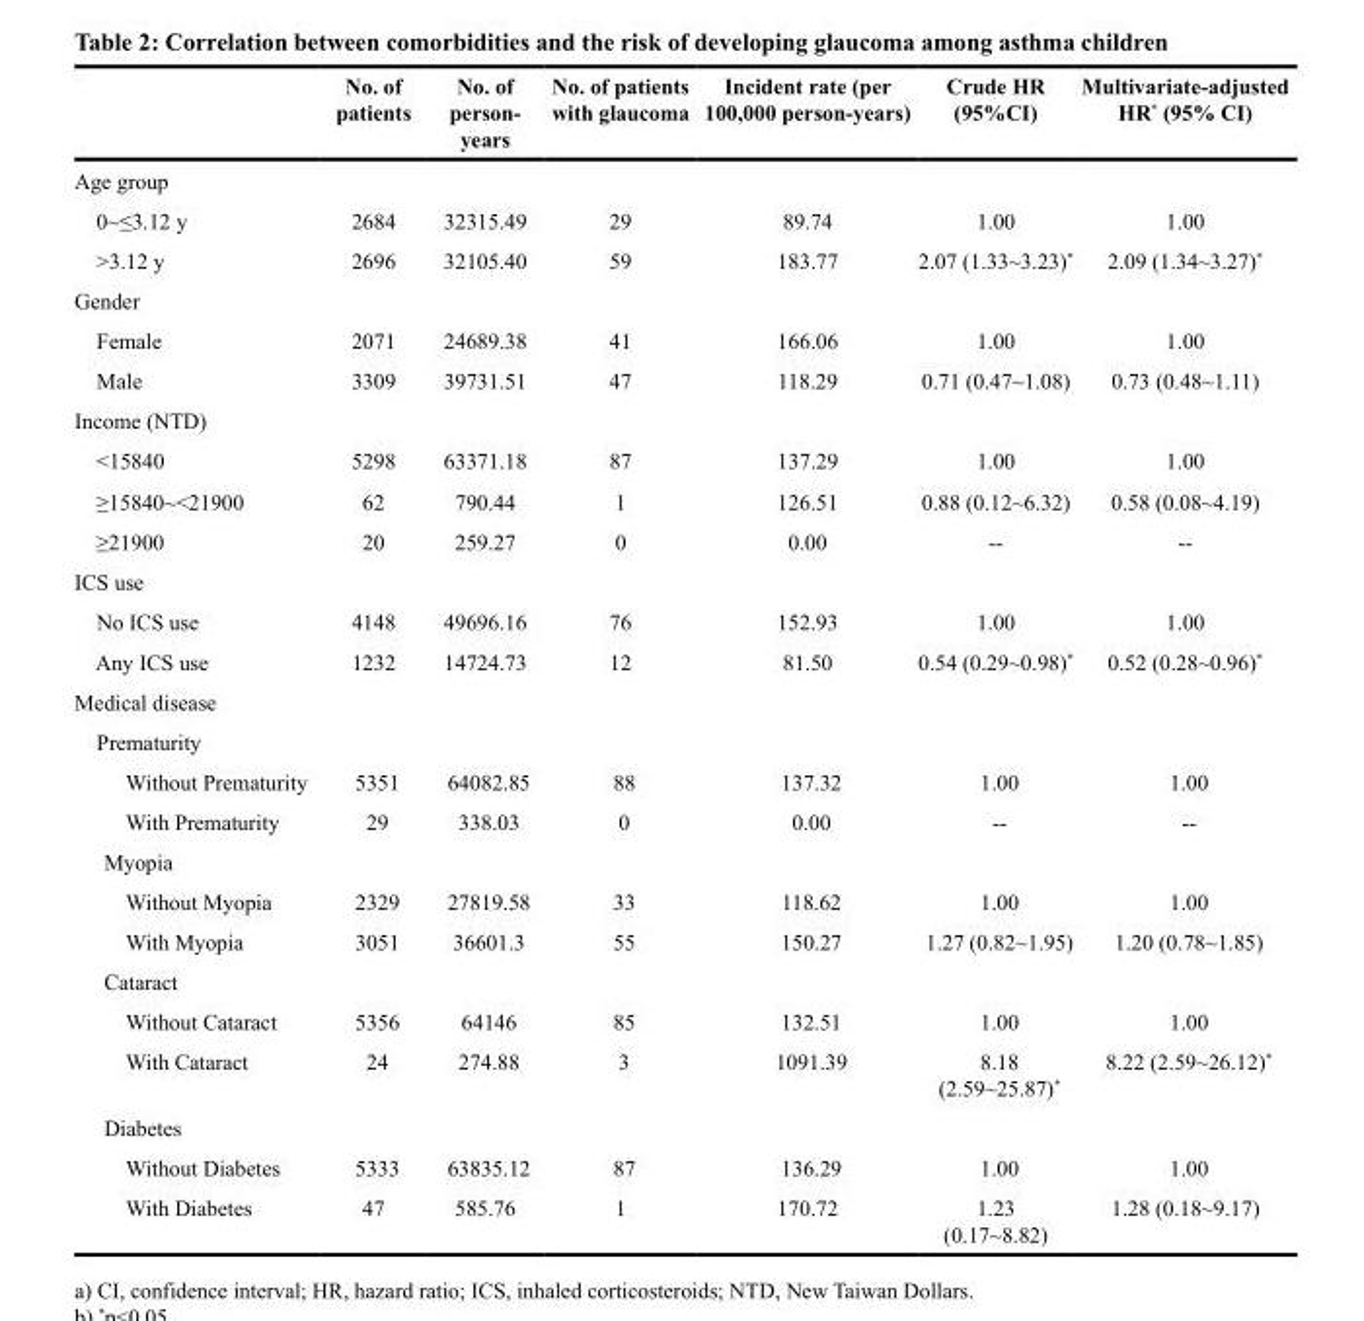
<table><thead><tr><td></td><td>No. of patients</td><td>No. of person- years</td><td>No. of patients with glaucoma</td><td>Incident rate (per 100,000 person-years)</td><td>Crude HR (95%CI)</td><td>Multivariate-adjusted HR* (95% CI)</td></tr></thead><tbody><tr><td colspan="7">Age group</td></tr><tr><td>0~≤3.12 y</td><td>2684</td><td>32315.49</td><td>29</td><td>89.74</td><td>1.00</td><td>1.00</td></tr><tr><td>&gt;3.12 y</td><td>2696</td><td>32105.40</td><td>59</td><td>183.77</td><td>2.07 (1.33~3.23)*</td><td>2.09 (1.34~3.27)*</td></tr><tr><td colspan="7">Gender</td></tr><tr><td>Female</td><td>2071</td><td>24689.38</td><td>41</td><td>166.06</td><td>1.00</td><td>1.00</td></tr><tr><td>Male</td><td>3309</td><td>39731.51</td><td>47</td><td>118.29</td><td>0.71 (0.47~1.08)</td><td>0.73 (0.48~1.11)</td></tr><tr><td colspan="7">Income (NTD)</td></tr><tr><td>&lt;15840</td><td>5298</td><td>63371.18</td><td>87</td><td>137.29</td><td>1.00</td><td>1.00</td></tr><tr><td>≥15840~&lt;21900</td><td>62</td><td>790.44</td><td>1</td><td>126.51</td><td>0.88 (0.12~6.32)</td><td>0.58 (0.08~4.19)</td></tr><tr><td>≥21900</td><td>20</td><td>259.27</td><td>0</td><td>0.00</td><td>--</td><td>--</td></tr><tr><td colspan="7">ICS use</td></tr><tr><td>No ICS use</td><td>4148</td><td>49696.16</td><td>76</td><td>152.93</td><td>1.00</td><td>1.00</td></tr><tr><td>Any ICS use</td><td>1232</td><td>14724.73</td><td>12</td><td>81.50</td><td>0.54 (0.29~0.98)*</td><td>0.52 (0.28~0.96)*</td></tr><tr><td colspan="7">Medical disease</td></tr><tr><td colspan="7">Prematurity</td></tr><tr><td>Without Prematurity</td><td>5351</td><td>64082.85</td><td>88</td><td>137.32</td><td>1.00</td><td>1.00</td></tr><tr><td>With Prematurity</td><td>29</td><td>338.03</td><td>0</td><td>0.00</td><td>--</td><td>--</td></tr><tr><td colspan="7">Myopia</td></tr><tr><td>Without Myopia</td><td>2329</td><td>27819.58</td><td>33</td><td>118.62</td><td>1.00</td><td>1.00</td></tr><tr><td>With Myopia</td><td>3051</td><td>36601.3</td><td>55</td><td>150.27</td><td>1.27 (0.82~1.95)</td><td>1.20 (0.78~1.85)</td></tr><tr><td colspan="7">Cataract</td></tr><tr><td>Without Cataract</td><td>5356</td><td>64146</td><td>85</td><td>132.51</td><td>1.00</td><td>1.00</td></tr><tr><td>With Cataract</td><td>24</td><td>274.88</td><td>3</td><td>1091.39</td><td>8.18 (2.59~25.87)*</td><td>8.22 (2.59~26.12)*</td></tr><tr><td colspan="7">Diabetes</td></tr><tr><td>Without Diabetes</td><td>5333</td><td>63835.12</td><td>87</td><td>136.29</td><td>1.00</td><td>1.00</td></tr><tr><td>With Diabetes</td><td>47</td><td>585.76</td><td>1</td><td>170.72</td><td>1.23 (0.17~8.82)</td><td>1.28 (0.18~9.17)</td></tr></tbody></table>